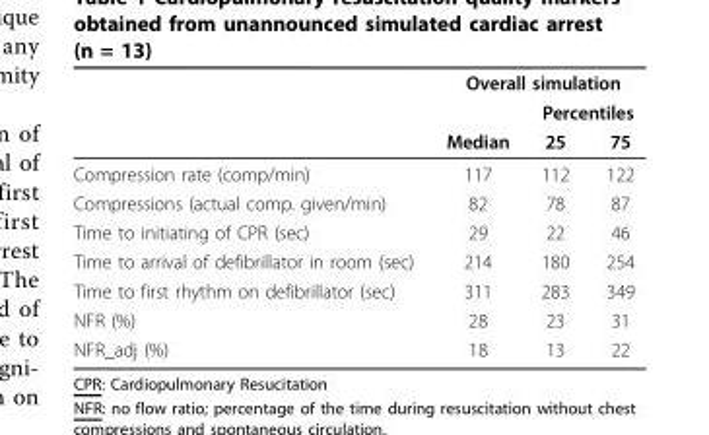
<table><thead><tr><td rowspan="3"></td><td colspan="3">Overall simulation</td></tr><tr><td rowspan="2">Median</td><td colspan="2">Percentiles</td></tr><tr><td>25</td><td>75</td></tr></thead><tbody><tr><td>Compression rate (comp/min)</td><td>117</td><td>112</td><td>122</td></tr><tr><td>Compressions (actual comp. given/min)</td><td>82</td><td>78</td><td>87</td></tr><tr><td>Time to initiating of CPR (sec)</td><td>29</td><td>22</td><td>46</td></tr><tr><td>Time to arrival of defibrillator in room (sec)</td><td>214</td><td>180</td><td>254</td></tr><tr><td>Time to first rhythm on defibrillator (sec)</td><td>311</td><td>283</td><td>349</td></tr><tr><td>NFR (%)</td><td>28</td><td>23</td><td>31</td></tr><tr><td>NFR_adj (%)</td><td>18</td><td>13</td><td>22</td></tr></tbody></table>